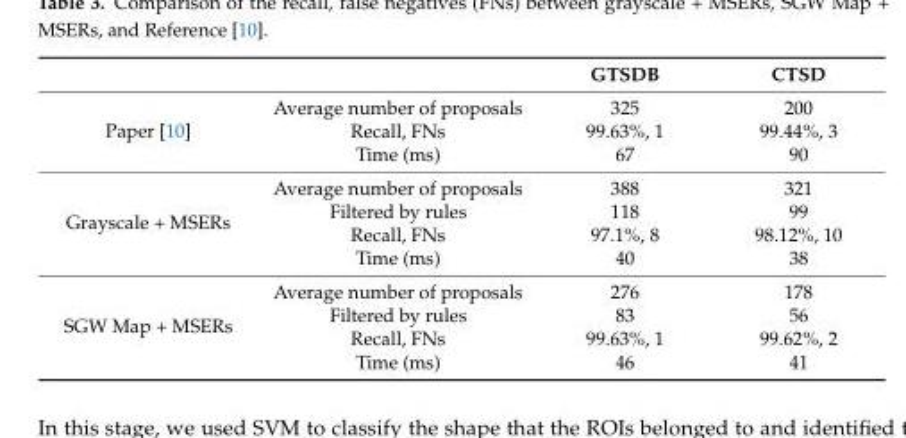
<table><thead><tr><td></td><td></td><td>GTSDB</td><td>CTSD</td></tr></thead><tbody><tr><td rowspan="3">Paper [10]</td><td>Average number of proposals</td><td>325</td><td>200</td></tr><tr><td>Recall, FNs</td><td>99.63%, 1</td><td>99.44%, 3</td></tr><tr><td>Time (ms)</td><td>67</td><td>90</td></tr><tr><td rowspan="4">Grayscale + MSERs</td><td>Average number of proposals</td><td>388</td><td>321</td></tr><tr><td>Filtered by rules</td><td>118</td><td>99</td></tr><tr><td>Recall, FNs</td><td>97.1%, 8</td><td>98.12%, 10</td></tr><tr><td>Time (ms)</td><td>40</td><td>38</td></tr><tr><td rowspan="4">SGW Map + MSERs</td><td>Average number of proposals</td><td>276</td><td>178</td></tr><tr><td>Filtered by rules</td><td>83</td><td>56</td></tr><tr><td>Recall, FNs</td><td>99.63%, 1</td><td>99.62%, 2</td></tr><tr><td>Time (ms)</td><td>46</td><td>41</td></tr></tbody></table>